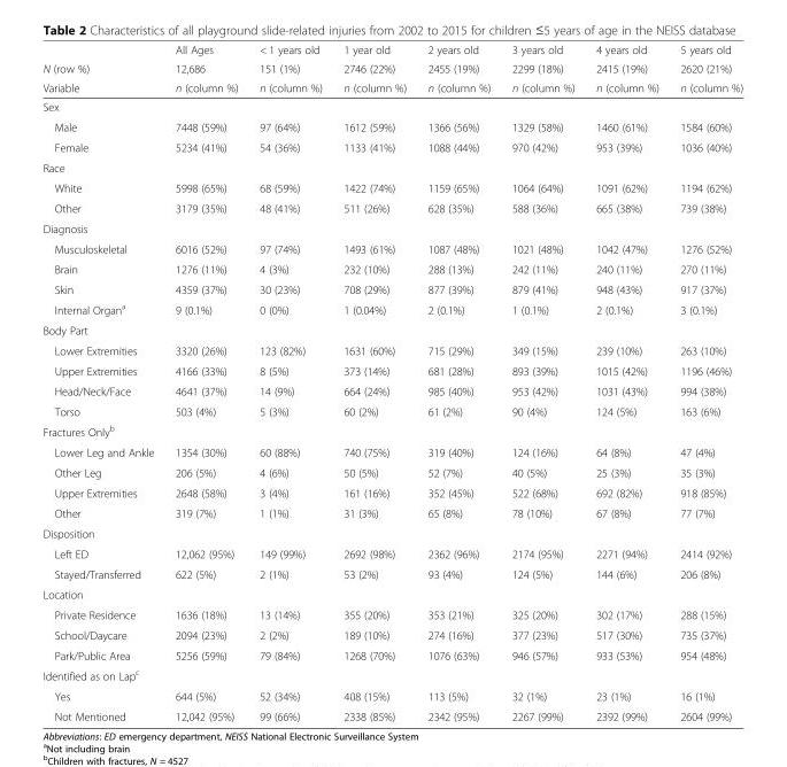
<table><thead><tr><td rowspan="3">N (row %) Variable</td><td rowspan="3">All Ages 12,686 n (column %)</td><td rowspan="3">&lt; 1 years old 151 (1%) n (column %)</td><td rowspan="3">1 year old 2746 (22%) n (column %)</td><td rowspan="3">2 years old 2455 (19%) n (column %)</td><td rowspan="3">3 years old 2299 (18%) n (column %)</td><td rowspan="3">4 years old 2415 (19%) n (column %)</td><td rowspan="3">5 years old 2620 (21%) n (column %)</td></tr><tr></tr><tr></tr></thead><tbody><tr><td colspan="8">Sex</td></tr><tr><td>Male</td><td>7448 (59%)</td><td>97 (64%)</td><td>1612 (59%)</td><td>1366 (56%)</td><td>1329 (58%)</td><td>1460 (61%)</td><td>1584 (60%)</td></tr><tr><td>Female</td><td>5234 (41%)</td><td>54 (36%)</td><td>1133 (41%)</td><td>1088 (44%)</td><td>970 (42%)</td><td>953 (39%)</td><td>1036 (40%)</td></tr><tr><td colspan="8">Race</td></tr><tr><td>White</td><td>5998 (65%)</td><td>68 (59%)</td><td>1422 (74%)</td><td>1159 (65%)</td><td>1064 (64%)</td><td>1091 (62%)</td><td>1194 (62%)</td></tr><tr><td>Other</td><td>3179 (35%)</td><td>48 (41%)</td><td>511 (26%)</td><td>628 (35%)</td><td>588 (36%)</td><td>665 (38%)</td><td>739 (38%)</td></tr><tr><td colspan="8">Diagnosis</td></tr><tr><td>Musculoskeletal</td><td>6016 (52%)</td><td>97 (74%)</td><td>1493 (61%)</td><td>1087 (48%)</td><td>1021 (48%)</td><td>1042 (47%)</td><td>1276 (52%)</td></tr><tr><td>Brain</td><td>1276 (11%)</td><td>4 (3%)</td><td>232 (10%)</td><td>288 (13%)</td><td>242 (11%)</td><td>240 (11%)</td><td>270 (11%)</td></tr><tr><td>Skin</td><td>4359 (37%)</td><td>30 (23%)</td><td>708 (29%)</td><td>877 (39%)</td><td>879 (41%)</td><td>948 (43%)</td><td>917 (37%)</td></tr><tr><td>Internal Organ<sup>a</sup></td><td>9 (0.1%)</td><td>0 (0%)</td><td>1 (0.04%)</td><td>2 (0.1%)</td><td>1 (0.1%)</td><td>2 (0.1%)</td><td>3 (0.1%)</td></tr><tr><td colspan="8">Body Part</td></tr><tr><td>Lower Extremities</td><td>3320 (26%)</td><td>123 (82%)</td><td>1631 (60%)</td><td>715 (29%)</td><td>349 (15%)</td><td>239 (10%)</td><td>263 (10%)</td></tr><tr><td>Upper Extremities</td><td>4166 (33%)</td><td>8 (5%)</td><td>373 (14%)</td><td>681 (28%)</td><td>893 (39%)</td><td>1015 (42%)</td><td>1196 (46%)</td></tr><tr><td>Head/Neck/Face</td><td>4641 (37%)</td><td>14 (9%)</td><td>664 (24%)</td><td>985 (40%)</td><td>953 (42%)</td><td>1031 (43%)</td><td>994 (38%)</td></tr><tr><td>Torso</td><td>503 (4%)</td><td>5 (3%)</td><td>60 (2%)</td><td>61 (2%)</td><td>90 (4%)</td><td>124 (5%)</td><td>163 (6%)</td></tr><tr><td colspan="8">Fractures Only<sup>b</sup></td></tr><tr><td>Lower Leg and Ankle</td><td>1354 (30%)</td><td>60 (88%)</td><td>740 (75%)</td><td>319 (40%)</td><td>124 (16%)</td><td>64 (8%)</td><td>47 (4%)</td></tr><tr><td>Other Leg</td><td>206 (5%)</td><td>4 (6%)</td><td>50 (5%)</td><td>52 (7%)</td><td>40 (5%)</td><td>25 (3%)</td><td>35 (3%)</td></tr><tr><td>Upper Extremities</td><td>2648 (58%)</td><td>3 (4%)</td><td>161 (16%)</td><td>352 (45%)</td><td>522 (68%)</td><td>692 (82%)</td><td>918 (85%)</td></tr><tr><td>Other</td><td>319 (7%)</td><td>1 (1%)</td><td>31 (3%)</td><td>65 (8%)</td><td>78 (10%)</td><td>67 (8%)</td><td>77 (7%)</td></tr><tr><td colspan="8">Disposition</td></tr><tr><td>Left ED</td><td>12,062 (95%)</td><td>149 (99%)</td><td>2692 (98%)</td><td>2362 (96%)</td><td>2174 (95%)</td><td>2271 (94%)</td><td>2414 (92%)</td></tr><tr><td>Stayed/Transferred</td><td>622 (5%)</td><td>2 (1%)</td><td>53 (2%)</td><td>93 (4%)</td><td>124 (5%)</td><td>144 (6%)</td><td>206 (8%)</td></tr><tr><td colspan="8">Location</td></tr><tr><td>Private Residence</td><td>1636 (18%)</td><td>13 (14%)</td><td>355 (20%)</td><td>353 (21%)</td><td>325 (20%)</td><td>302 (17%)</td><td>288 (15%)</td></tr><tr><td>School/Daycare</td><td>2094 (23%)</td><td>2 (2%)</td><td>189 (10%)</td><td>274 (16%)</td><td>377 (23%)</td><td>517 (30%)</td><td>735 (37%)</td></tr><tr><td>Park/Public Area</td><td>5256 (59%)</td><td>79 (84%)</td><td>1268 (70%)</td><td>1076 (63%)</td><td>946 (57%)</td><td>933 (53%)</td><td>954 (48%)</td></tr><tr><td colspan="8">Identified as on Lap<sup>c</sup></td></tr><tr><td>Yes</td><td>644 (5%)</td><td>52 (34%)</td><td>408 (15%)</td><td>113 (5%)</td><td>32 (1%)</td><td>23 (1%)</td><td>16 (1%)</td></tr><tr><td>Not Mentioned</td><td>12,042 (95%)</td><td>99 (66%)</td><td>2338 (85%)</td><td>2342 (95%)</td><td>2267 (99%)</td><td>2392 (99%)</td><td>2604 (99%)</td></tr></tbody></table>